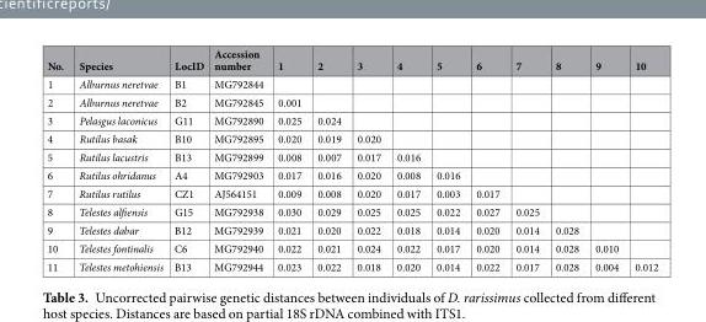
<table><thead><tr><td>No.</td><td>Species</td><td>LocID</td><td>Accession number</td><td>1</td><td>2</td><td>3</td><td>4</td><td>5</td><td>6</td><td>7</td><td>8</td><td>9</td><td>10</td></tr></thead><tbody><tr><td>1</td><td>Alburnus neretvae</td><td>B1</td><td>MG792844</td><td></td><td></td><td></td><td></td><td></td><td></td><td></td><td></td><td></td><td></td></tr><tr><td>2</td><td>Alburnus neretvae</td><td>B2</td><td>MG792845</td><td>0.001</td><td></td><td></td><td></td><td></td><td></td><td></td><td></td><td></td><td></td></tr><tr><td>3</td><td>Pelasgus laconicus</td><td>G11</td><td>MG792890</td><td>0.025</td><td>0.024</td><td></td><td></td><td></td><td></td><td></td><td></td><td></td><td></td></tr><tr><td>4</td><td>Rutilus basak</td><td>B10</td><td>MG792895</td><td>0.020</td><td>0.019</td><td>0.020</td><td></td><td></td><td></td><td></td><td></td><td></td><td></td></tr><tr><td>5</td><td>Rutilus lacustris</td><td>B13</td><td>MG792899</td><td>0.008</td><td>0.007</td><td>0.017</td><td>0.016</td><td></td><td></td><td></td><td></td><td></td><td></td></tr><tr><td>6</td><td>Rutilus ohridanus</td><td>A4</td><td>MG792903</td><td>0.017</td><td>0.016</td><td>0.020</td><td>0.008</td><td>0.016</td><td></td><td></td><td></td><td></td><td></td></tr><tr><td>7</td><td>Rutilus rutilus</td><td>CZ1</td><td>AJ564151</td><td>0.009</td><td>0.008</td><td>0.020</td><td>0.017</td><td>0.003</td><td>0.017</td><td></td><td></td><td></td><td></td></tr><tr><td>8</td><td>Telestes alfiensis</td><td>G15</td><td>MG792938</td><td>0.030</td><td>0.029</td><td>0.025</td><td>0.025</td><td>0.022</td><td>0.027</td><td>0.025</td><td></td><td></td><td></td></tr><tr><td>9</td><td>Telestes dabar</td><td>B12</td><td>MG792939</td><td>0.021</td><td>0.020</td><td>0.022</td><td>0.018</td><td>0.014</td><td>0.020</td><td>0.014</td><td>0.028</td><td></td><td></td></tr><tr><td>10</td><td>Telestes fontinalis</td><td>C6</td><td>MG792940</td><td>0.022</td><td>0.021</td><td>0.024</td><td>0.022</td><td>0.017</td><td>0.020</td><td>0.014</td><td>0.028</td><td>0.010</td><td></td></tr><tr><td>11</td><td>Telestes metohiensis</td><td>B13</td><td>MG792944</td><td>0.023</td><td>0.022</td><td>0.018</td><td>0.020</td><td>0.014</td><td>0.022</td><td>0.017</td><td>0.028</td><td>0.004</td><td>0.012</td></tr></tbody></table>